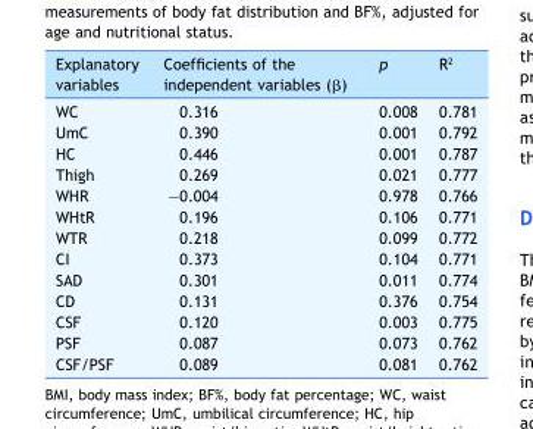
<table><thead><tr><td>Explanatory variables</td><td>Coefficients of the independent variables (β)</td><td>p</td><td>R<sup>2</sup></td></tr></thead><tbody><tr><td>WC</td><td>0.316</td><td>0.008</td><td>0.781</td></tr><tr><td>UmC</td><td>0.390</td><td>0.001</td><td>0.792</td></tr><tr><td>HC</td><td>0.446</td><td>0.001</td><td>0.787</td></tr><tr><td>Thigh</td><td>0.269</td><td>0.021</td><td>0.777</td></tr><tr><td>WHR</td><td>—0.004</td><td>0.978</td><td>0.766</td></tr><tr><td>WHtR</td><td>0.196</td><td>0.106</td><td>0.771</td></tr><tr><td>WTR</td><td>0.218</td><td>0.099</td><td>0.772</td></tr><tr><td>CI</td><td>0.373</td><td>0.104</td><td>0.771</td></tr><tr><td>SAD</td><td>0.301</td><td>0.011</td><td>0.774</td></tr><tr><td>CD</td><td>0.131</td><td>0.376</td><td>0.754</td></tr><tr><td>CSF</td><td>0.120</td><td>0.003</td><td>0.775</td></tr><tr><td>PSF</td><td>0.087</td><td>0.073</td><td>0.762</td></tr><tr><td>CSF/PSF</td><td>0.089</td><td>0.081</td><td>0.762</td></tr></tbody></table>